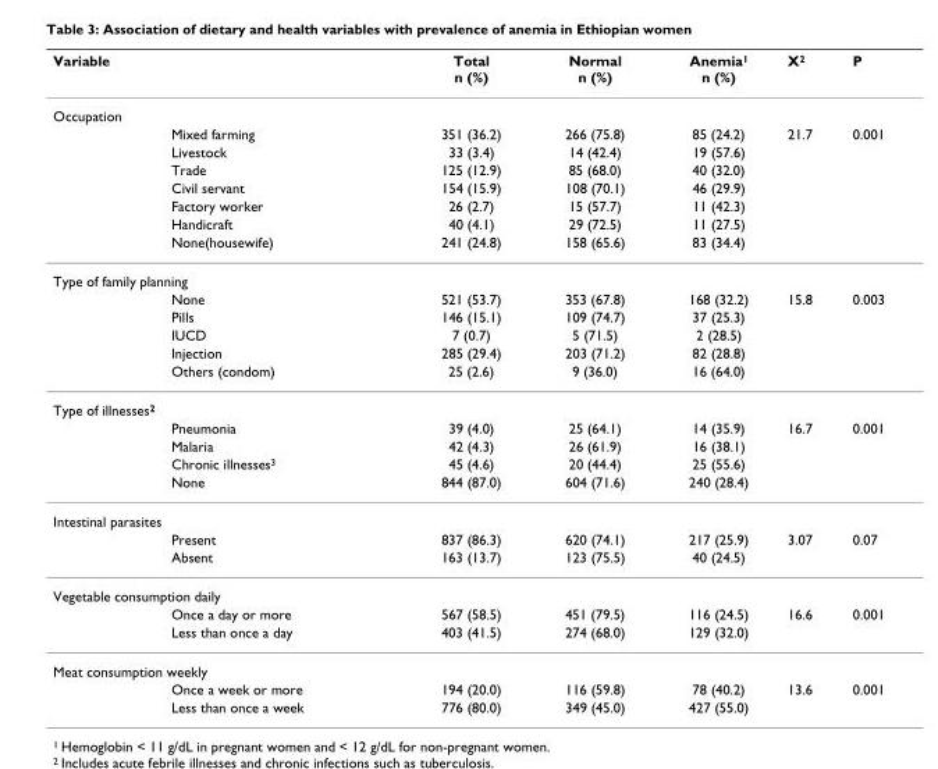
<table><thead><tr><td>Variable</td><td></td><td>Total n (%)</td><td>Normal n (%)</td><td>Anemia<sup>1</sup> n (%)</td><td>X<sup>2</sup></td><td>P</td></tr></thead><tbody><tr><td colspan="7">Occupation</td></tr><tr><td></td><td>Mixed farming</td><td>351 (36.2)</td><td>266 (75.8)</td><td>85 (24.2)</td><td>21.7</td><td>0.001</td></tr><tr><td></td><td>Livestock</td><td>33 (3.4)</td><td>14 (42.4)</td><td>19 (57.6)</td><td></td><td></td></tr><tr><td></td><td>Trade</td><td>125 (12.9)</td><td>85 (68.0)</td><td>40 (32.0)</td><td></td><td></td></tr><tr><td></td><td>Civil servant</td><td>154 (15.9)</td><td>108 (70.1)</td><td>46 (29.9)</td><td></td><td></td></tr><tr><td></td><td>Factory worker</td><td>26 (2.7)</td><td>15 (57.7)</td><td>11 (42.3)</td><td></td><td></td></tr><tr><td></td><td>Handicraft</td><td>40 (4.1)</td><td>29 (72.5)</td><td>11 (27.5)</td><td></td><td></td></tr><tr><td></td><td>None(housewife)</td><td>241 (24.8)</td><td>158 (65.6)</td><td>83 (34.4)</td><td></td><td></td></tr><tr><td colspan="7">Type of family planning</td></tr><tr><td></td><td>None</td><td>521 (53.7)</td><td>353 (67.8)</td><td>168 (32.2)</td><td>15.8</td><td>0.003</td></tr><tr><td></td><td>Pills</td><td>146 (15.1)</td><td>109 (74.7)</td><td>37 (25.3)</td><td></td><td></td></tr><tr><td></td><td>IUCD</td><td>7 (0.7)</td><td>5 (71.5)</td><td>2 (28.5)</td><td></td><td></td></tr><tr><td></td><td>Injection</td><td>285 (29.4)</td><td>203 (71.2)</td><td>82 (28.8)</td><td></td><td></td></tr><tr><td></td><td>Others (condom)</td><td>25 (2.6)</td><td>9 (36.0)</td><td>16 (64.0)</td><td></td><td></td></tr><tr><td colspan="7">Type of illnesses<sup>2</sup></td></tr><tr><td></td><td>Pneumonia</td><td>39 (4.0)</td><td>25 (64.1)</td><td>14 (35.9)</td><td>16.7</td><td>0.001</td></tr><tr><td></td><td>Malaria</td><td>42 (4.3)</td><td>26 (61.9)</td><td>16 (38.1)</td><td></td><td></td></tr><tr><td></td><td>Chronic illnesses<sup>3</sup></td><td>45 (4.6)</td><td>20 (44.4)</td><td>25 (55.6)</td><td></td><td></td></tr><tr><td></td><td>None</td><td>844 (87.0)</td><td>604 (71.6)</td><td>240 (28.4)</td><td></td><td></td></tr><tr><td colspan="7">Intestinal parasites</td></tr><tr><td></td><td>Present</td><td>837 (86.3)</td><td>620 (74.1)</td><td>217 (25.9)</td><td>3.07</td><td>0.07</td></tr><tr><td></td><td>Absent</td><td>163 (13.7)</td><td>123 (75.5)</td><td>40 (24.5)</td><td></td><td></td></tr><tr><td colspan="7">Vegetable consumption daily</td></tr><tr><td></td><td>Once a day or more</td><td>567 (58.5)</td><td>451 (79.5)</td><td>116 (24.5)</td><td>16.6</td><td>0.001</td></tr><tr><td></td><td>Less than once a day</td><td>403 (41.5)</td><td>274 (68.0)</td><td>129 (32.0)</td><td></td><td></td></tr><tr><td colspan="7">Meat consumption weekly</td></tr><tr><td></td><td>Once a week or more</td><td>194 (20.0)</td><td>116 (59.8)</td><td>78 (40.2)</td><td>13.6</td><td>0.001</td></tr><tr><td></td><td>Less than once a week</td><td>776 (80.0)</td><td>349 (45.0)</td><td>427 (55.0)</td><td></td><td></td></tr></tbody></table>